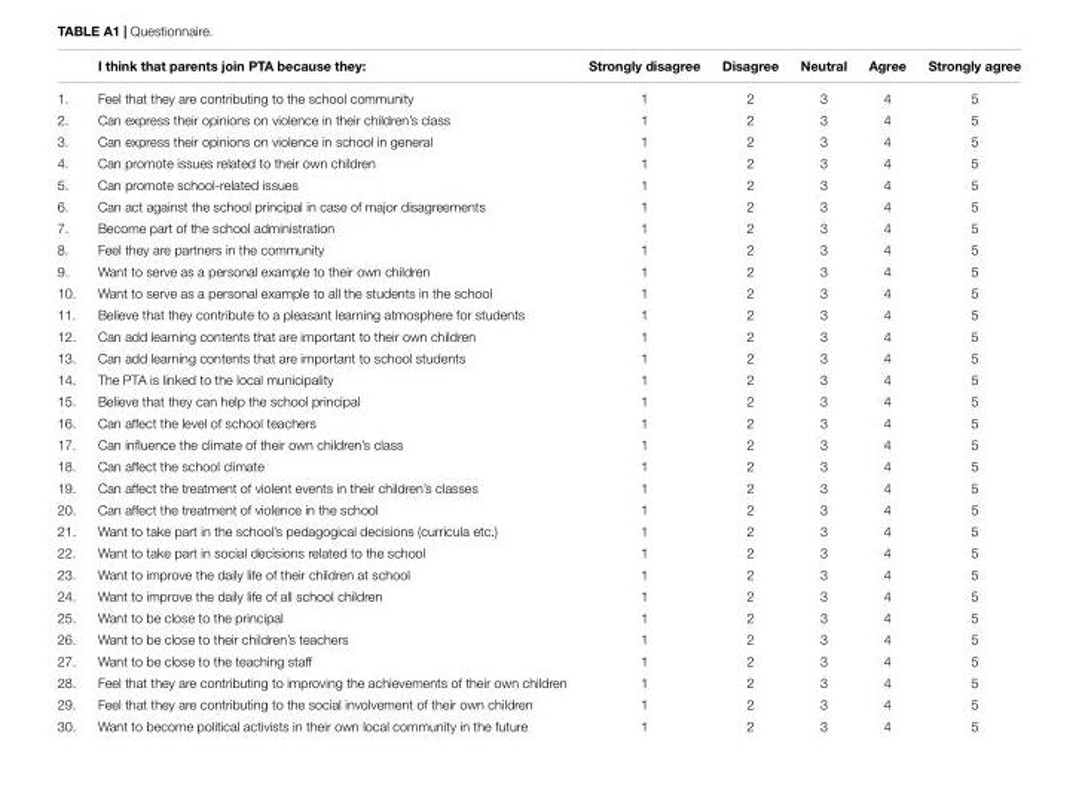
<table><thead><tr><td></td><td>I think that parents join PTA because they:</td><td>Strongly disagree</td><td>Disagree</td><td>Neutral</td><td>Agree</td><td>Strongly agree</td></tr></thead><tbody><tr><td>1.</td><td>Feel that they are contributing to the school community</td><td>1</td><td>2</td><td>3</td><td>4</td><td>5</td></tr><tr><td>2.</td><td>Can express their opinions on violence in their children’s class</td><td>1</td><td>2</td><td>3</td><td>4</td><td>5</td></tr><tr><td>3.</td><td>Can express their opinions on violence in school in general</td><td>1</td><td>2</td><td>3</td><td>4</td><td>5</td></tr><tr><td>4.</td><td>Can promote issues related to their own children</td><td>1</td><td>2</td><td>3</td><td>4</td><td>5</td></tr><tr><td>5.</td><td>Can promote school-related issues</td><td>1</td><td>2</td><td>3</td><td>4</td><td>5</td></tr><tr><td>6.</td><td>Can act against the school principal in case of major disagreements</td><td>1</td><td>2</td><td>3</td><td>4</td><td>5</td></tr><tr><td>7.</td><td>Become part of the school administration</td><td>1</td><td>2</td><td>3</td><td>4</td><td>5</td></tr><tr><td>8.</td><td>Feel they are partners in the community</td><td>1</td><td>2</td><td>3</td><td>4</td><td>5</td></tr><tr><td>9.</td><td>Want to serve as a personal example to their own children</td><td>1</td><td>2</td><td>3</td><td>4</td><td>5</td></tr><tr><td>10.</td><td>Want to serve as a personal example to all the students in the school</td><td>1</td><td>2</td><td>3</td><td>4</td><td>5</td></tr><tr><td>11.</td><td>Believe that they contribute to a pleasant learning atmosphere for students</td><td>1</td><td>2</td><td>3</td><td>4</td><td>5</td></tr><tr><td>12.</td><td>Can add learning contents that are important to their own children</td><td>1</td><td>2</td><td>3</td><td>4</td><td>5</td></tr><tr><td>13.</td><td>Can add learning contents that are important to school students</td><td>1</td><td>2</td><td>3</td><td>4</td><td>5</td></tr><tr><td>14.</td><td>The PTA is linked to the local municipality</td><td>1</td><td>2</td><td>3</td><td>4</td><td>5</td></tr><tr><td>15.</td><td>Believe that they can help the school principal</td><td>1</td><td>2</td><td>3</td><td>4</td><td>5</td></tr><tr><td>16.</td><td>Can affect the level of school teachers</td><td>1</td><td>2</td><td>3</td><td>4</td><td>5</td></tr><tr><td>17.</td><td>Can influence the climate of their own children’s class</td><td>1</td><td>2</td><td>3</td><td>4</td><td>5</td></tr><tr><td>18.</td><td>Can affect the school climate</td><td>1</td><td>2</td><td>3</td><td>4</td><td>5</td></tr><tr><td>19.</td><td>Can affect the treatment of violent events in their children’s classes</td><td>1</td><td>2</td><td>3</td><td>4</td><td>5</td></tr><tr><td>20.</td><td>Can affect the treatment of violence in the school</td><td>1</td><td>2</td><td>3</td><td>4</td><td>5</td></tr><tr><td>21.</td><td>Want to take part in the school’s pedagogical decisions (curricula etc.)</td><td>1</td><td>2</td><td>3</td><td>4</td><td>5</td></tr><tr><td>22.</td><td>Want to take part in social decisions related to the school</td><td>1</td><td>2</td><td>3</td><td>4</td><td>5</td></tr><tr><td>23.</td><td>Want to improve the daily life of their children at school</td><td>1</td><td>2</td><td>3</td><td>4</td><td>5</td></tr><tr><td>24.</td><td>Want to improve the daily life of all school children</td><td>1</td><td>2</td><td>3</td><td>4</td><td>5</td></tr><tr><td>25.</td><td>Want to be close to the principal</td><td>1</td><td>2</td><td>3</td><td>4</td><td>5</td></tr><tr><td>26.</td><td>Want to be close to their children’s teachers</td><td>1</td><td>2</td><td>3</td><td>4</td><td>5</td></tr><tr><td>27.</td><td>Want to be close to the teaching staff</td><td>1</td><td>2</td><td>3</td><td>4</td><td>5</td></tr><tr><td>28.</td><td>Feel that they are contributing to improving the achievements of their own children</td><td>1</td><td>2</td><td>3</td><td>4</td><td>5</td></tr><tr><td>29.</td><td>Feel that they are contributing to the social involvement of their own children</td><td>1</td><td>2</td><td>3</td><td>4</td><td>5</td></tr><tr><td>30.</td><td>Want to become political activists in their own local community in the future</td><td>1</td><td>2</td><td>3</td><td>4</td><td>5</td></tr></tbody></table>